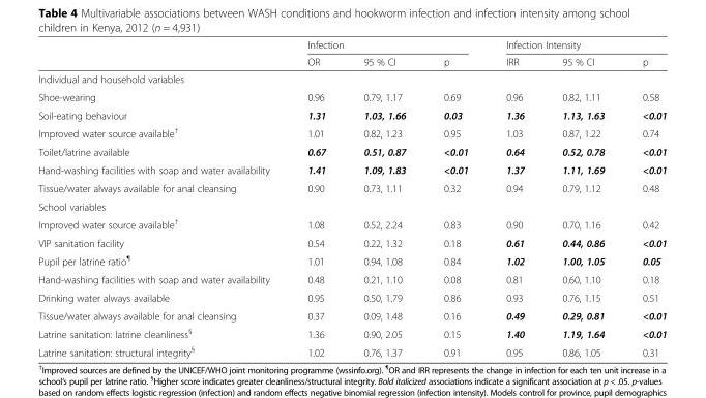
<table><thead><tr><td rowspan="2"></td><td colspan="3">Infection</td><td colspan="3">Infection Intensity</td></tr><tr><td>OR</td><td>95 % CI</td><td>p</td><td>IRR</td><td>95 % CI</td><td>p</td></tr></thead><tbody><tr><td colspan="7">Individual and household variables</td></tr><tr><td>Shoe-wearing</td><td>0.96</td><td>0.79, 1.17</td><td>0.69</td><td>0.96</td><td>0.82, 1.11</td><td>0.58</td></tr><tr><td>Soil-eating behaviour</td><td>1.31</td><td>1.03, 1.66</td><td>0.03</td><td>1.36</td><td>1.13, 1.63</td><td>&lt;0.01</td></tr><tr><td>Improved water source available<sup>†</sup></td><td>1.01</td><td>0.82, 1.23</td><td>0.95</td><td>1.03</td><td>0.87, 1.22</td><td>0.74</td></tr><tr><td>Toilet/latrine available</td><td>0.67</td><td>0.51, 0.87</td><td>&lt;0.01</td><td>0.64</td><td>0.52, 0.78</td><td>&lt;0.01</td></tr><tr><td>Hand-washing facilities with soap and water availability</td><td>1.41</td><td>1.09, 1.83</td><td>&lt;0.01</td><td>1.37</td><td>1.11, 1.69</td><td>&lt;0.01</td></tr><tr><td>Tissue/water always available for anal cleansing</td><td>0.90</td><td>0.73, 1.11</td><td>0.32</td><td>0.94</td><td>0.79, 1.12</td><td>0.48</td></tr><tr><td colspan="7">School variables</td></tr><tr><td>Improved water source available<sup>†</sup></td><td>1.08</td><td>0.52, 2.24</td><td>0.83</td><td>0.90</td><td>0.70, 1.16</td><td>0.42</td></tr><tr><td>VIP sanitation facility</td><td>0.54</td><td>0.22, 1.32</td><td>0.18</td><td>0.61</td><td>0.44, 0.86</td><td>&lt;0.01</td></tr><tr><td>Pupil per latrine ratio<sup>¶</sup></td><td>1.01</td><td>0.94, 1.08</td><td>0.84</td><td>1.02</td><td>1.00, 1.05</td><td>0.05</td></tr><tr><td>Hand-washing facilities with soap and water availability</td><td>0.48</td><td>0.21, 1.10</td><td>0.08</td><td>0.81</td><td>0.60, 1.10</td><td>0.18</td></tr><tr><td>Drinking water always available</td><td>0.95</td><td>0.50, 1.79</td><td>0.86</td><td>0.93</td><td>0.76, 1.15</td><td>0.51</td></tr><tr><td>Tissue/water always available for anal cleansing</td><td>0.37</td><td>0.09, 1.48</td><td>0.16</td><td>0.49</td><td>0.29, 0.81</td><td>&lt;0.01</td></tr><tr><td>Latrine sanitation: latrine cleanliness<sup>§</sup></td><td>1.36</td><td>0.90, 2.05</td><td>0.15</td><td>1.40</td><td>1.19, 1.64</td><td>&lt;0.01</td></tr><tr><td>Latrine sanitation: structural integrity<sup>§</sup></td><td>1.02</td><td>0.76, 1.37</td><td>0.91</td><td>0.95</td><td>0.86, 1.05</td><td>0.31</td></tr></tbody></table>